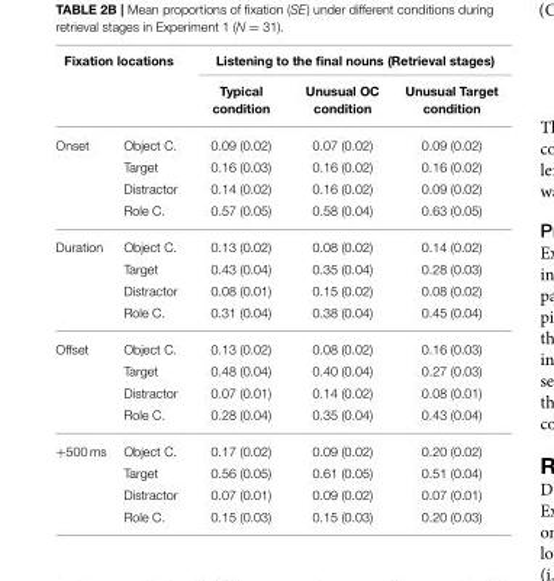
<table><thead><tr><td colspan="2">Fixation locations</td><td colspan="3">Listening to the final nouns (Retrieval stages)</td></tr><tr><td></td><td></td><td>Typical condition</td><td>Unusual OC condition</td><td>Unusual Target condition</td></tr></thead><tbody><tr><td rowspan="4">Onset</td><td>Object C.</td><td>0.09 (0.02)</td><td>0.07 (0.02)</td><td>0.09 (0.02)</td></tr><tr><td>Target</td><td>0.16 (0.03)</td><td>0.16 (0.02)</td><td>0.16 (0.02)</td></tr><tr><td>Distractor</td><td>0.14 (0.02)</td><td>0.16 (0.02)</td><td>0.09 (0.02)</td></tr><tr><td>Role C.</td><td>0.57 (0.05)</td><td>0.58 (0.04)</td><td>0.63 (0.05)</td></tr><tr><td rowspan="4">Duration</td><td>Object C.</td><td>0.13 (0.02)</td><td>0.08 (0.02)</td><td>0.14 (0.02)</td></tr><tr><td>Target</td><td>0.43 (0.04)</td><td>0.35 (0.04)</td><td>0.28 (0.03)</td></tr><tr><td>Distractor</td><td>0.08 (0.01)</td><td>0.15 (0.02)</td><td>0.08 (0.02)</td></tr><tr><td>Role C.</td><td>0.31 (0.04)</td><td>0.38 (0.04)</td><td>0.45 (0.04)</td></tr><tr><td rowspan="4">Offset</td><td>Object C.</td><td>0.13 (0.02)</td><td>0.08 (0.02)</td><td>0.16 (0.03)</td></tr><tr><td>Target</td><td>0.48 (0.04)</td><td>0.40 (0.04)</td><td>0.27 (0.03)</td></tr><tr><td>Distractor</td><td>0.07 (0.01)</td><td>0.14 (0.02)</td><td>0.08 (0.01)</td></tr><tr><td>Role C.</td><td>0.28 (0.04)</td><td>0.35 (0.04)</td><td>0.43 (0.04)</td></tr><tr><td rowspan="4">+500 ms</td><td>Object C.</td><td>0.17 (0.02)</td><td>0.09 (0.02)</td><td>0.20 (0.02)</td></tr><tr><td>Target</td><td>0.56 (0.05)</td><td>0.61 (0.05)</td><td>0.51 (0.04)</td></tr><tr><td>Distractor</td><td>0.07 (0.01)</td><td>0.09 (0.02)</td><td>0.07 (0.01)</td></tr><tr><td>Role C.</td><td>0.15 (0.03)</td><td>0.15 (0.03)</td><td>0.20 (0.03)</td></tr></tbody></table>